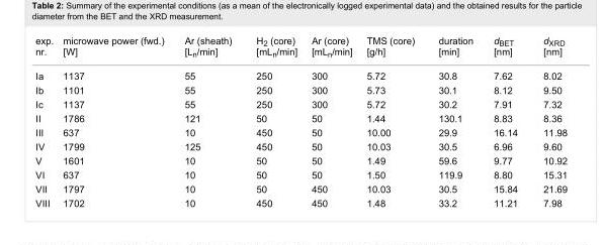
<table><tbody><tr><td>exp. nr.</td><td>microwave power (fwd.) [W]</td><td>Ar (sheath) [L<sub>n</sub>/min]</td><td>H<sub>2</sub> (core) [mL<sub>n</sub>/min]</td><td>Ar (core) [mL<sub>n</sub>/min]</td><td>TMS (core) [g/h]</td><td>duration [min]</td><td>d<sub>BET</sub> [nm]</td><td>d<sub>XRD</sub> [nm]</td></tr><tr><td>Ia</td><td>1137</td><td>55</td><td>250</td><td>300</td><td>5.72</td><td>30.8</td><td>7.62</td><td>8.02</td></tr><tr><td>Ib</td><td>1101</td><td>55</td><td>250</td><td>300</td><td>5.73</td><td>30.1</td><td>8.12</td><td>9.50</td></tr><tr><td>Ic</td><td>1137</td><td>55</td><td>250</td><td>300</td><td>5.72</td><td>30.2</td><td>7.91</td><td>7.32</td></tr><tr><td>II</td><td>1786</td><td>121</td><td>50</td><td>50</td><td>1.44</td><td>130.1</td><td>8.83</td><td>8.36</td></tr><tr><td>III</td><td>637</td><td>10</td><td>450</td><td>50</td><td>10.00</td><td>29.9</td><td>16.14</td><td>11.98</td></tr><tr><td>IV</td><td>1799</td><td>125</td><td>450</td><td>50</td><td>10.03</td><td>30.5</td><td>6.96</td><td>9.60</td></tr><tr><td>V</td><td>1601</td><td>10</td><td>50</td><td>50</td><td>1.49</td><td>59.6</td><td>9.77</td><td>10.92</td></tr><tr><td>VI</td><td>637</td><td>10</td><td>50</td><td>50</td><td>1.50</td><td>119.9</td><td>8.80</td><td>15.31</td></tr><tr><td>VII</td><td>1797</td><td>10</td><td>50</td><td>450</td><td>10.03</td><td>30.5</td><td>15.84</td><td>21.69</td></tr><tr><td>VIII</td><td>1702</td><td>10</td><td>450</td><td>450</td><td>1.48</td><td>33.2</td><td>11.21</td><td>7.98</td></tr></tbody></table>